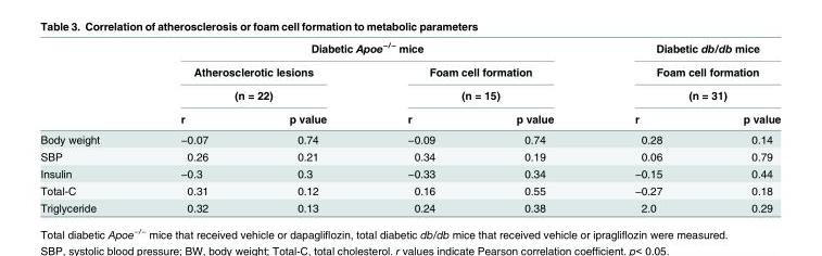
<table><thead><tr><td rowspan="4"></td><td colspan="4">Diabetic Apoe<sup>−/−</sup> mice</td><td rowspan="3" colspan="2">Diabetic db/db mice Foam cell formation (n = 31)</td></tr><tr><td rowspan="2" colspan="2">Atherosclerotic lesions (n = 22)</td><td rowspan="2" colspan="2">Foam cell formation (n = 15)</td></tr><tr></tr><tr><td>r</td><td>p value</td><td>r</td><td>p value</td><td>r</td><td>p value</td></tr></thead><tbody><tr><td>Body weight</td><td>−0.07</td><td>0.74</td><td>−0.09</td><td>0.74</td><td>0.28</td><td>0.14</td></tr><tr><td>SBP</td><td>0.26</td><td>0.21</td><td>0.34</td><td>0.19</td><td>0.06</td><td>0.79</td></tr><tr><td>Insulin</td><td>−0.3</td><td>0.3</td><td>−0.33</td><td>0.34</td><td>−0.15</td><td>0.44</td></tr><tr><td>Total-C</td><td>0.31</td><td>0.12</td><td>0.16</td><td>0.55</td><td>−0.27</td><td>0.18</td></tr><tr><td>Triglyceride</td><td>0.32</td><td>0.13</td><td>0.24</td><td>0.38</td><td>2.0</td><td>0.29</td></tr></tbody></table>